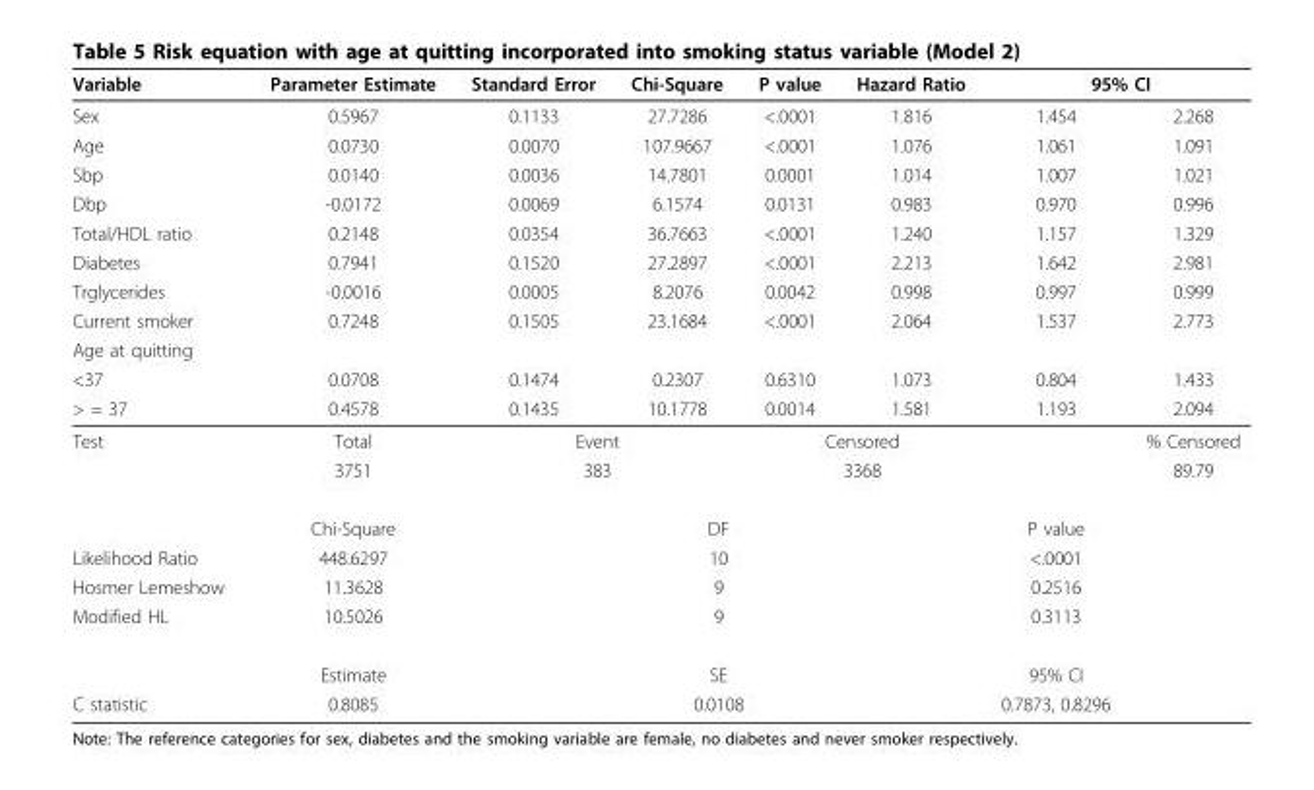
<table><thead><tr><td rowspan="2">Variable Sex</td><td rowspan="2">Parameter Estimate 0.5967</td><td rowspan="2">Standard Error 0.1133</td><td rowspan="2">Chi-Square 27.7286</td><td rowspan="2">P value &lt;.0001</td><td rowspan="2">Hazard Ratio 1.816</td><td colspan="2">95% CI</td></tr><tr><td>1.454</td><td>2.268</td></tr></thead><tbody><tr><td>Age</td><td>0.0730</td><td>0.0070</td><td>107.9667</td><td>&lt;.0001</td><td>1.076</td><td>1.061</td><td>1.091</td></tr><tr><td>Sbp</td><td>0.0140</td><td>0.0036</td><td>14.7801</td><td>0.0001</td><td>1.014</td><td>1.007</td><td>1.021</td></tr><tr><td>Dbp</td><td>-0.0172</td><td>0.0069</td><td>6.1574</td><td>0.0131</td><td>0.983</td><td>0.970</td><td>0.996</td></tr><tr><td>Total/HDL ratio</td><td>0.2148</td><td>0.0354</td><td>36.7663</td><td>&lt;.0001</td><td>1.240</td><td>1.157</td><td>1.329</td></tr><tr><td>Diabetes</td><td>0.7941</td><td>0.1520</td><td>27.2897</td><td>&lt;.0001</td><td>2.213</td><td>1.642</td><td>2.981</td></tr><tr><td>Trglycerides</td><td>-0.0016</td><td>0.0005</td><td>8.2076</td><td>0.0042</td><td>0.998</td><td>0.997</td><td>0.999</td></tr><tr><td>Current smoker</td><td>0.7248</td><td>0.1505</td><td>23.1684</td><td>&lt;.0001</td><td>2.064</td><td>1.537</td><td>2.773</td></tr><tr><td colspan="8">Age at quitting</td></tr><tr><td>&lt;37</td><td>0.0708</td><td>0.1474</td><td>0.2307</td><td>0.6310</td><td>1.073</td><td>0.804</td><td>1.433</td></tr><tr><td>&gt; = 37</td><td>0.4578</td><td>0.1435</td><td>10.1778</td><td>0.0014</td><td>1.581</td><td>1.193</td><td>2.094</td></tr><tr><td rowspan="3">Test</td><td>Total</td><td colspan="2">Event</td><td colspan="2">Censored</td><td></td><td>% Censored</td></tr><tr><td>3751</td><td colspan="2">383</td><td colspan="2">3368</td><td></td><td>89.79</td></tr><tr><td>Chi-Square</td><td colspan="4">DF</td><td>P value</td><td></td></tr><tr><td>Likelihood Ratio</td><td>448.6297</td><td colspan="4">10</td><td>&lt;.0001</td><td></td></tr><tr><td>Hosmer Lemeshow</td><td>11.3628</td><td colspan="4">9</td><td>0.2516</td><td></td></tr><tr><td rowspan="2">Modified HL</td><td>10.5026</td><td colspan="4">9</td><td>0.3113</td><td></td></tr><tr><td>Estimate</td><td colspan="4">SE</td><td>95% CI</td><td></td></tr><tr><td>C statistic</td><td>0.8085</td><td colspan="4">0.0108</td><td>0.7873, 0.8296</td><td></td></tr></tbody></table>